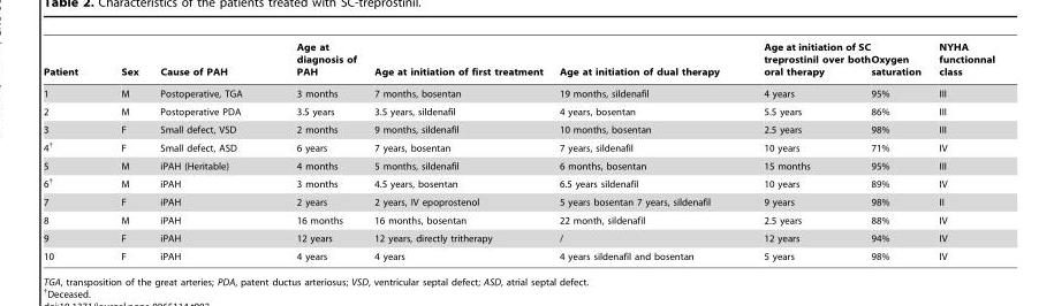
<table><thead><tr><td>Patient</td><td>Sex</td><td>Cause of PAH</td><td>Age at diagnosis of PAH</td><td>Age at initiation of first treatment</td><td>Age at initiation of dual therapy</td><td>Age at initiation of SC treprostinil over both oral therapy</td><td>Oxygen saturation</td><td>NYHA functionnal class</td></tr></thead><tbody><tr><td>1</td><td>M</td><td>Postoperative, TGA</td><td>3 months</td><td>7 months, bosentan</td><td>19 months, sildenafil</td><td>4 years</td><td>95%</td><td>III</td></tr><tr><td>2</td><td>M</td><td>Postoperative PDA</td><td>3.5 years</td><td>3.5 years, sildenafil</td><td>4 years, bosentan</td><td>5.5 years</td><td>86%</td><td>III</td></tr><tr><td>3</td><td>F</td><td>Small defect, VSD</td><td>2 months</td><td>9 months, sildenafil</td><td>10 months, bosentan</td><td>2.5 years</td><td>98%</td><td>III</td></tr><tr><td>4†</td><td>F</td><td>Small defect, ASD</td><td>6 years</td><td>7 years, bosentan</td><td>7 years, sildenafil</td><td>10 years</td><td>71%</td><td>IV</td></tr><tr><td>5</td><td>M</td><td>iPAH (Heritable)</td><td>4 months</td><td>5 months, sildenafil</td><td>6 months, bosentan</td><td>15 months</td><td>95%</td><td>III</td></tr><tr><td>6†</td><td>M</td><td>iPAH</td><td>3 months</td><td>4.5 years, bosentan</td><td>6.5 years sildenafil</td><td>10 years</td><td>89%</td><td>IV</td></tr><tr><td>7</td><td>F</td><td>iPAH</td><td>2 years</td><td>2 years, IV epoprostenol</td><td>5 years bosentan 7 years, sildenafil</td><td>9 years</td><td>98%</td><td>II</td></tr><tr><td>8</td><td>M</td><td>iPAH</td><td>16 months</td><td>16 months, bosentan</td><td>22 month, sildenafil</td><td>2.5 years</td><td>88%</td><td>IV</td></tr><tr><td>9</td><td>F</td><td>iPAH</td><td>12 years</td><td>12 years, directly tritherapy</td><td>/</td><td>12 years</td><td>94%</td><td>IV</td></tr><tr><td>10</td><td>F</td><td>iPAH</td><td>4 years</td><td>4 years</td><td>4 years sildenafil and bosentan</td><td>5 years</td><td>98%</td><td>IV</td></tr></tbody></table>